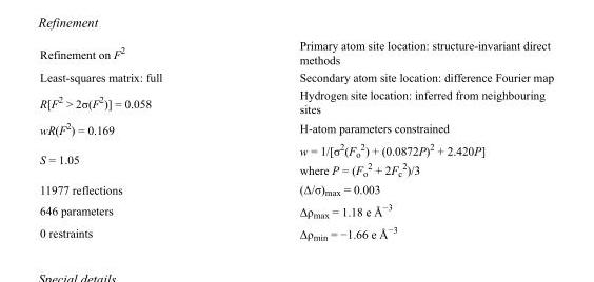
<table><tbody><tr><td>Refinement on F<sup>2</sup></td><td>Primary atom site location: structure-invariant direct methods</td></tr><tr><td>Least-squares matrix: full</td><td>Secondary atom site location: difference Fourier map</td></tr><tr><td>R[F<sup>2</sup> &gt; 2σ(F<sup>2</sup>)] = 0.058</td><td>Hydrogen site location: inferred from neighbouring sites</td></tr><tr><td>wR(F<sup>2</sup>) = 0.169</td><td>H-atom parameters constrained</td></tr><tr><td>S = 1.05</td><td>w = 1/[σ<sup>2</sup>(F<sub>o</sub> <sup>2</sup>) + (0.0872P)<sup>2</sup> + 2.420P] where P = (F<sub>o</sub> <sup>2</sup> + 2F<sub>c</sub> <sup>2</sup>)/3</td></tr><tr><td>11977 reflections</td><td>(Δ/σ)<sub>max</sub> = 0.003</td></tr><tr><td>646 parameters</td><td>Δρ<sub>max</sub> = 1.18 e Å<sup>−3</sup></td></tr><tr><td>0 restraints</td><td>Δρ<sub>min</sub> = −1.66 e Å<sup>−3</sup></td></tr></tbody></table>